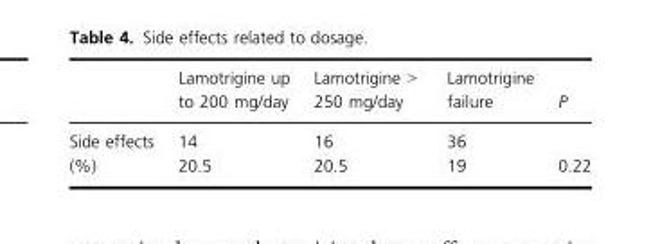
<table><thead><tr><td></td><td>Lamotrigine up to 200 mg/day</td><td>Lamotrigine &gt; 250 mg/day</td><td>Lamotrigine failure</td><td>P</td></tr></thead><tbody><tr><td>Side effects</td><td>14</td><td>16</td><td>36</td><td></td></tr><tr><td>(%)</td><td>20.5</td><td>20.5</td><td>19</td><td>0.22</td></tr></tbody></table>